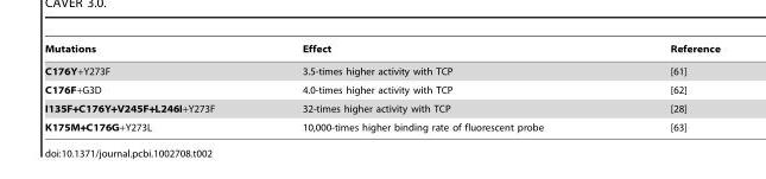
<table><thead><tr><td>Mutations</td><td>Effect</td><td>Reference</td></tr></thead><tbody><tr><td>C176Y+Y273F</td><td>3.5-times higher activity with TCP</td><td>[61]</td></tr><tr><td>C176F+G3D</td><td>4.0-times higher activity with TCP</td><td>[62]</td></tr><tr><td>I135F+C176Y+V245F+L246I+Y273F</td><td>32-times higher activity with TCP</td><td>[28]</td></tr><tr><td>K175M+C176G+Y273L</td><td>10,000-times higher binding rate of fluorescent probe</td><td>[63]</td></tr></tbody></table>